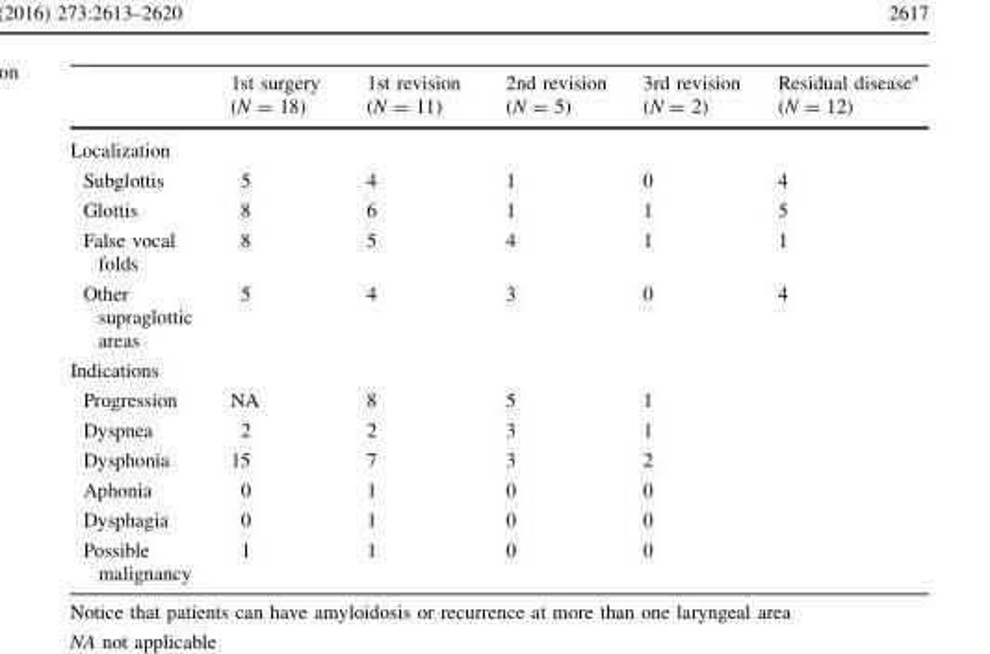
<table><thead><tr><td></td><td>1st surgery (N = 18)</td><td>1st revision (N = 11)</td><td>2nd revision (N = 5)</td><td>3rd revision (N = 2)</td><td>Residual disease<sup>a</sup> (N = 12)</td></tr></thead><tbody><tr><td colspan="6">Localization</td></tr><tr><td>Subglottis</td><td>5</td><td>4</td><td>1</td><td>0</td><td>4</td></tr><tr><td>Glottis</td><td>8</td><td>6</td><td>1</td><td>1</td><td>5</td></tr><tr><td>False vocal folds</td><td>8</td><td>5</td><td>4</td><td>1</td><td>1</td></tr><tr><td>Other supraglottic areas</td><td>5</td><td>4</td><td>3</td><td>0</td><td>4</td></tr><tr><td colspan="6">Indications</td></tr><tr><td>Progression</td><td>NA</td><td>8</td><td>5</td><td>1</td><td></td></tr><tr><td>Dyspnea</td><td>2</td><td>2</td><td>3</td><td>1</td><td></td></tr><tr><td>Dysphonia</td><td>15</td><td>7</td><td>3</td><td>2</td><td></td></tr><tr><td>Aphonia</td><td>0</td><td>1</td><td>0</td><td>0</td><td></td></tr><tr><td>Dysphagia</td><td>0</td><td>1</td><td>0</td><td>0</td><td></td></tr><tr><td>Possible malignancy</td><td>1</td><td>1</td><td>0</td><td>0</td><td></td></tr></tbody></table>